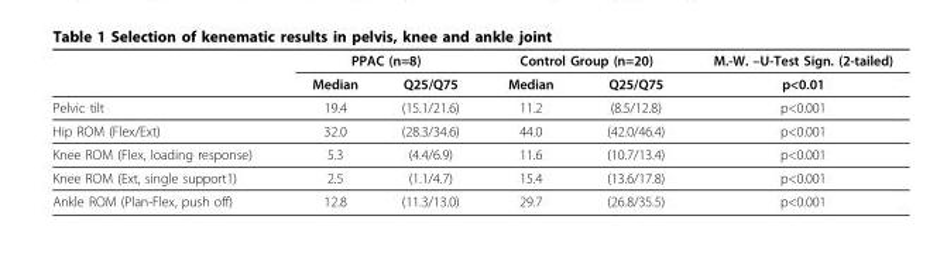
<table><thead><tr><td rowspan="2"></td><td colspan="2">PPAC (n=8)</td><td colspan="2">Control Group (n=20)</td><td rowspan="2">M.-W. –U-Test Sign. (2-tailed) p&lt;0.01</td></tr><tr><td>Median</td><td>Q25/Q75</td><td>Median</td><td>Q25/Q75</td></tr></thead><tbody><tr><td>Pelvic tilt</td><td>19.4</td><td>(15.1/21.6)</td><td>11.2</td><td>(8.5/12.8)</td><td>p&lt;0.001</td></tr><tr><td>Hip ROM (Flex/Ext)</td><td>32.0</td><td>(28.3/34.6)</td><td>44.0</td><td>(42.0/46.4)</td><td>p&lt;0.001</td></tr><tr><td>Knee ROM (Flex, loading response)</td><td>5.3</td><td>(4.4/6.9)</td><td>11.6</td><td>(10.7/13.4)</td><td>p&lt;0.001</td></tr><tr><td>Knee ROM (Ext, single support1)</td><td>2.5</td><td>(1.1/4.7)</td><td>15.4</td><td>(13.6/17.8)</td><td>p&lt;0.001</td></tr><tr><td>Ankle ROM (Plan-Flex, push off)</td><td>12.8</td><td>(11.3/13.0)</td><td>29.7</td><td>(26.8/35.5)</td><td>p&lt;0.001</td></tr></tbody></table>